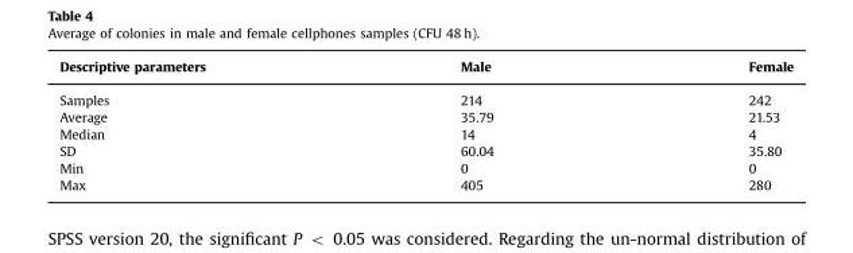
<table><thead><tr><td>Descriptive parameters</td><td>Male</td><td>Female</td></tr></thead><tbody><tr><td>Samples</td><td>214</td><td>242</td></tr><tr><td>Average</td><td>35.79</td><td>21.53</td></tr><tr><td>Median</td><td>14</td><td>4</td></tr><tr><td>SD</td><td>60.04</td><td>35.80</td></tr><tr><td>Min</td><td>0</td><td>0</td></tr><tr><td>Max</td><td>405</td><td>280</td></tr></tbody></table>